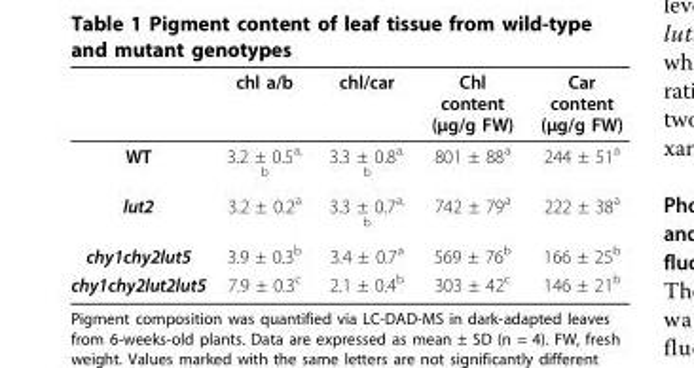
<table><thead><tr><td></td><td>chl a/b</td><td>chl/car</td><td>Chl content (μg/g FW)</td><td>Car content (μg/g FW)</td></tr></thead><tbody><tr><td>WT</td><td>3.2 ± 0.5<sup>a, b</sup></td><td>3.3 ± 0.8<sup>a, b</sup></td><td>801 ± 88<sup>a</sup></td><td>244 ± 51<sup>a</sup></td></tr><tr><td>lut2</td><td>3.2 ± 0.2<sup>a</sup></td><td>3.3 ± 0.7<sup>a, b</sup></td><td>742 ± 79<sup>a</sup></td><td>222 ± 38<sup>a</sup></td></tr><tr><td>chy1chy2lut5</td><td>3.9 ± 0.3<sup>b</sup></td><td>3.4 ± 0.7<sup>a</sup></td><td>569 ± 76<sup>b</sup></td><td>166 ± 25<sup>b</sup></td></tr><tr><td>chy1chy2lut2lut5</td><td>7.9 ± 0.3<sup>c</sup></td><td>2.1 ± 0.4<sup>b</sup></td><td>303 ± 42<sup>c</sup></td><td>146 ± 21<sup>b</sup></td></tr></tbody></table>